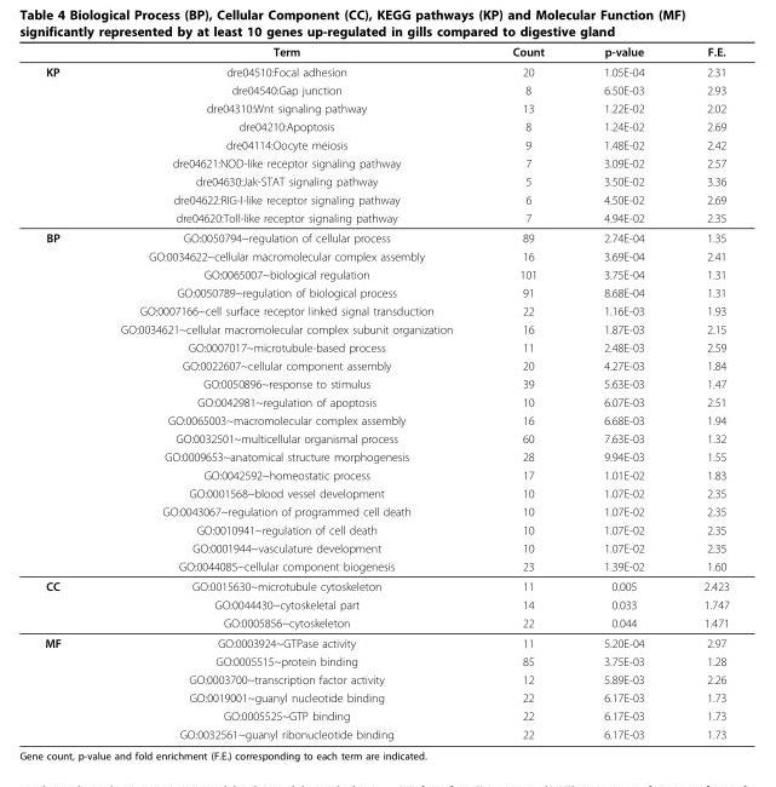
<table><thead><tr><td></td><td>Term</td><td>Count</td><td>p-value</td><td>F.E.</td></tr></thead><tbody><tr><td rowspan="9">KP</td><td>dre04510:Focal adhesion</td><td>20</td><td>1.05E-04</td><td>2.31</td></tr><tr><td>dre04540:Gap junction</td><td>8</td><td>6.50E-03</td><td>2.93</td></tr><tr><td>dre04310:Wnt signaling pathway</td><td>13</td><td>1.22E-02</td><td>2.02</td></tr><tr><td>dre04210:Apoptosis</td><td>8</td><td>1.24E-02</td><td>2.69</td></tr><tr><td>dre04114:Oocyte meiosis</td><td>9</td><td>1.48E-02</td><td>2.42</td></tr><tr><td>dre04621:NOD-like receptor signaling pathway</td><td>7</td><td>3.09E-02</td><td>2.57</td></tr><tr><td>dre04630:Jak-STAT signaling pathway</td><td>5</td><td>3.50E-02</td><td>3.36</td></tr><tr><td>dre04622:RIG-I-like receptor signaling pathway</td><td>6</td><td>4.50E-02</td><td>2.69</td></tr><tr><td>dre04620:Toll-like receptor signaling pathway</td><td>7</td><td>4.94E-02</td><td>2.35</td></tr><tr><td rowspan="19">BP</td><td>GO:0050794~regulation of cellular process</td><td>89</td><td>2.74E-04</td><td>1.35</td></tr><tr><td>GO:0034622~cellular macromolecular complex assembly</td><td>16</td><td>3.69E-04</td><td>2.41</td></tr><tr><td>GO:0065007~biological regulation</td><td>101</td><td>3.75E-04</td><td>1.31</td></tr><tr><td>GO:0050789~regulation of biological process</td><td>91</td><td>8.68E-04</td><td>1.31</td></tr><tr><td>GO:0007166~cell surface receptor linked signal transduction</td><td>22</td><td>1.16E-03</td><td>1.93</td></tr><tr><td>GO:0034621~cellular macromolecular complex subunit organization</td><td>16</td><td>1.87E-03</td><td>2.15</td></tr><tr><td>GO:0007017~microtubule-based process</td><td>11</td><td>2.48E-03</td><td>2.59</td></tr><tr><td>GO:0022607~cellular component assembly</td><td>20</td><td>4.27E-03</td><td>1.84</td></tr><tr><td>GO:0050896~response to stimulus</td><td>39</td><td>5.63E-03</td><td>1.47</td></tr><tr><td>GO:0042981~regulation of apoptosis</td><td>10</td><td>6.07E-03</td><td>2.51</td></tr><tr><td>GO:0065003~macromolecular complex assembly</td><td>16</td><td>6.68E-03</td><td>1.94</td></tr><tr><td>GO:0032501~multicellular organismal process</td><td>60</td><td>7.63E-03</td><td>1.32</td></tr><tr><td>GO:0009653~anatomical structure morphogenesis</td><td>28</td><td>9.94E-03</td><td>1.55</td></tr><tr><td>GO:0042592~homeostatic process</td><td>17</td><td>1.01E-02</td><td>1.83</td></tr><tr><td>GO:0001568~blood vessel development</td><td>10</td><td>1.07E-02</td><td>2.35</td></tr><tr><td>GO:0043067~regulation of programmed cell death</td><td>10</td><td>1.07E-02</td><td>2.35</td></tr><tr><td>GO:0010941~regulation of cell death</td><td>10</td><td>1.07E-02</td><td>2.35</td></tr><tr><td>GO:0001944~vasculature development</td><td>10</td><td>1.07E-02</td><td>2.35</td></tr><tr><td>GO:0044085~cellular component biogenesis</td><td>23</td><td>1.39E-02</td><td>1.60</td></tr><tr><td rowspan="3">CC</td><td>GO:0015630~microtubule cytoskeleton</td><td>11</td><td>0.005</td><td>2.423</td></tr><tr><td>GO:0044430~cytoskeletal part</td><td>14</td><td>0.033</td><td>1.747</td></tr><tr><td>GO:0005856~cytoskeleton</td><td>22</td><td>0.044</td><td>1.471</td></tr><tr><td rowspan="6">MF</td><td>GO:0003924~GTPase activity</td><td>11</td><td>5.20E-04</td><td>2.97</td></tr><tr><td>GO:0005515~protein binding</td><td>85</td><td>3.75E-03</td><td>1.28</td></tr><tr><td>GO:0003700~transcription factor activity</td><td>12</td><td>5.89E-03</td><td>2.26</td></tr><tr><td>GO:0019001~guanyl nucleotide binding</td><td>22</td><td>6.17E-03</td><td>1.73</td></tr><tr><td>GO:0005525~GTP binding</td><td>22</td><td>6.17E-03</td><td>1.73</td></tr><tr><td>GO:0032561~guanyl ribonucleotide binding</td><td>22</td><td>6.17E-03</td><td>1.73</td></tr></tbody></table>